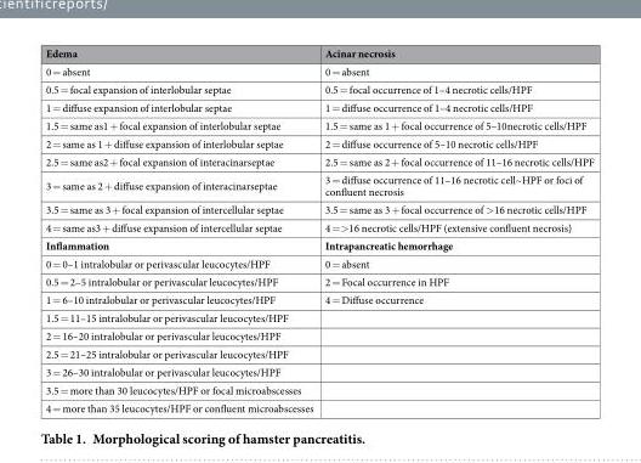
<table><thead><tr><td>Edema</td><td>Acinar necrosis</td></tr></thead><tbody><tr><td>0 = absent</td><td>0 = absent</td></tr><tr><td>0.5 = focal expansion of interlobular septae</td><td>0.5 = focal occurrence of 1–4 necrotic cells/HPF</td></tr><tr><td>1 = diffuse expansion of interlobular septae</td><td>1 = diffuse occurrence of 1–4 necrotic cells/HPF</td></tr><tr><td>1.5 = same as1 + focal expansion of interlobular septae</td><td>1.5 = same as 1 + focal occurrence of 5–10necrotic cells/HPF</td></tr><tr><td>2 = same as 1 + diffuse expansion of interlobular septae</td><td>2 = diffuse occurrence of 5–10 necrotic cells/HPF</td></tr><tr><td>2.5 = same as2 + focal expansion of interacinarseptae</td><td>2.5 = same as 2 + focal occurrence of 11–16 necrotic cells/HPF</td></tr><tr><td>3 = same as 2 + diffuse expansion of interacinarseptae</td><td>3 = diffuse occurrence of 11–16 necrotic cell~HPF or foci of confluent necrosis</td></tr><tr><td>3.5 = same as 3 + focal expansion of intercellular septae</td><td>3.5 = same as 3 + focal occurrence of &gt; 16 necrotic cells/HPF</td></tr><tr><td>4 = same as3 + diffuse expansion of intercellular septae</td><td>4 =&gt; 16 necrotic cells/HPF (extensive confluent necrosis)</td></tr><tr><td>Inflammation</td><td>Intrapancreatic hemorrhage</td></tr><tr><td>0 = 0–1 intralobular or perivascular leucocytes/HPF</td><td>0 = absent</td></tr><tr><td>0.5 = 2–5 intralobular or perivascular leucocytes/HPF</td><td>2 = Focal occurrence in HPF</td></tr><tr><td>1 = 6–10 intralobular or perivascular leucocytes/HPF</td><td>4 = Diffuse occurrence</td></tr><tr><td colspan="2">1.5 = 11–15 intralobular or perivascular leucocytes/HPF</td></tr><tr><td colspan="2">2 = 16–20 intralobular or perivascular leucocytes/HPF</td></tr><tr><td colspan="2">2.5 = 21–25 intralobular or perivascular leucocytes/HPF</td></tr><tr><td colspan="2">3 = 26–30 intralobular or perivascular leucocytes/HPF</td></tr><tr><td colspan="2">3.5 = more than 30 leucocytes/HPF or focal microabscesses</td></tr><tr><td>4 = more than 35 leucocytes/HPF or confluent microabscesses</td><td></td></tr></tbody></table>